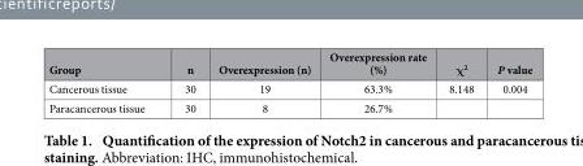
<table><thead><tr><td>Group</td><td>n</td><td>Overexpression (n)</td><td>Overexpression rate (%)</td><td>χ<sup>2</sup></td><td>P value</td></tr></thead><tbody><tr><td>Cancerous tissue</td><td>30</td><td>19</td><td>63.3%</td><td>8.148</td><td>0.004</td></tr><tr><td>Paracancerous tissue</td><td>30</td><td>8</td><td>26.7%</td><td></td><td></td></tr></tbody></table>